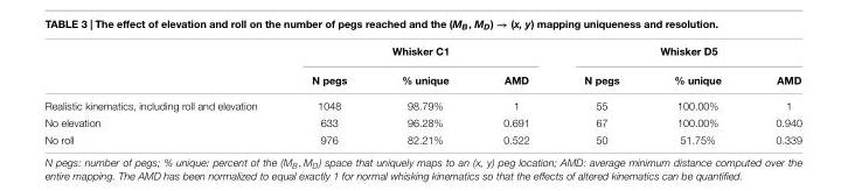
<table><thead><tr><td rowspan="2"></td><td colspan="3">Whisker C1</td><td colspan="3">Whisker D5</td></tr><tr><td>N pegs</td><td>% unique</td><td>AMD</td><td>N pegs</td><td>% unique</td><td>AMD</td></tr></thead><tbody><tr><td>Realistic kinematics, including roll and elevation</td><td>1048</td><td>98.79%</td><td>1</td><td>55</td><td>100.00%</td><td>1</td></tr><tr><td>No elevation</td><td>633</td><td>96.28%</td><td>0.691</td><td>67</td><td>100.00%</td><td>0.940</td></tr><tr><td>No roll</td><td>976</td><td>82.21%</td><td>0.522</td><td>50</td><td>51.75%</td><td>0.339</td></tr></tbody></table>